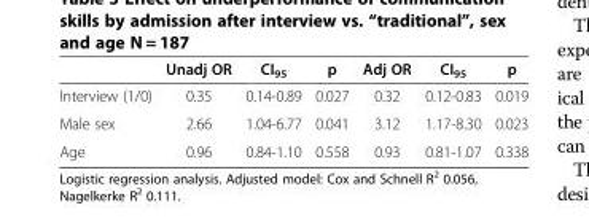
<table><thead><tr><td></td><td>Unadj OR</td><td>CI<sub>95</sub></td><td>p</td><td>Adj OR</td><td>CI<sub>95</sub></td><td>p</td></tr></thead><tbody><tr><td>Interview (1/0)</td><td>0.35</td><td>0.14-0.89</td><td>0.027</td><td>0.32</td><td>0.12-0.83</td><td>0.019</td></tr><tr><td>Male sex</td><td>2.66</td><td>1.04-6.77</td><td>0.041</td><td>3.12</td><td>1.17-8.30</td><td>0.023</td></tr><tr><td>Age</td><td>0.96</td><td>0.84-1.10</td><td>0.558</td><td>0.93</td><td>0.81-1.07</td><td>0.338</td></tr></tbody></table>